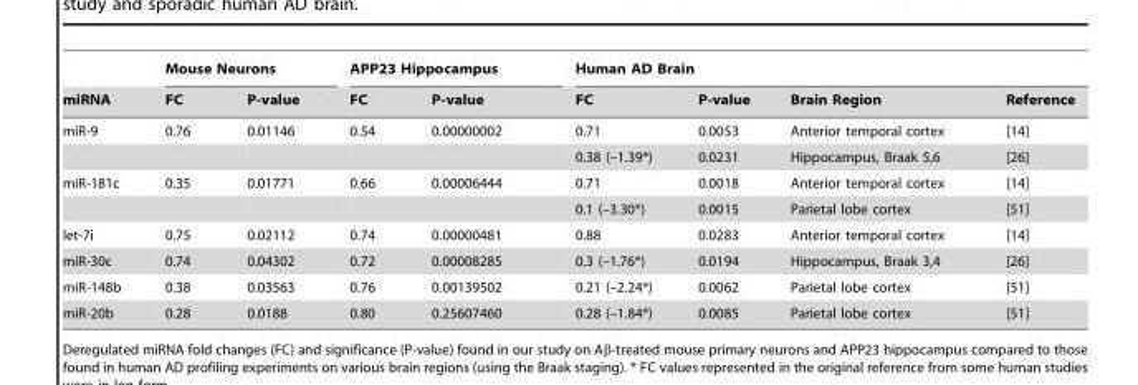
<table><thead><tr><td rowspan="2">miRNA</td><td colspan="2">Mouse Neurons</td><td colspan="2">APP23 Hippocampus</td><td colspan="4">Human AD Brain</td></tr><tr><td>FC</td><td>P-value</td><td>FC</td><td>P-value</td><td>FC</td><td>P-value</td><td>Brain Region</td><td>Reference</td></tr></thead><tbody><tr><td rowspan="2">miR-9</td><td>0.76</td><td>0.01146</td><td>0.54</td><td>0.00000002</td><td>0.71</td><td>0.0053</td><td>Anterior temporal cortex</td><td>[14]</td></tr><tr><td></td><td></td><td></td><td></td><td>0.38 (–1.39*)</td><td>0.0231</td><td>Hippocampus, Braak 5,6</td><td>[26]</td></tr><tr><td rowspan="2">miR-181c</td><td>0.35</td><td>0.01771</td><td>0.66</td><td>0.00006444</td><td>0.71</td><td>0.0018</td><td>Anterior temporal cortex</td><td>[14]</td></tr><tr><td></td><td></td><td></td><td></td><td>0.1 (–3.30*)</td><td>0.0015</td><td>Parietal lobe cortex</td><td>[51]</td></tr><tr><td>let-7i</td><td>0.75</td><td>0.02112</td><td>0.74</td><td>0.00000481</td><td>0.88</td><td>0.0283</td><td>Anterior temporal cortex</td><td>[14]</td></tr><tr><td>miR-30c</td><td>0.74</td><td>0.04302</td><td>0.72</td><td>0.00008285</td><td>0.3 (–1.76*)</td><td>0.0194</td><td>Hippocampus, Braak 3,4</td><td>[26]</td></tr><tr><td>miR-148b</td><td>0.38</td><td>0.03563</td><td>0.76</td><td>0.00139502</td><td>0.21 (–2.24*)</td><td>0.0062</td><td>Parietal lobe cortex</td><td>[51]</td></tr><tr><td>miR-20b</td><td>0.28</td><td>0.0188</td><td>0.80</td><td>0.25607460</td><td>0.28 (–1.84*)</td><td>0.0085</td><td>Parietal lobe cortex</td><td>[51]</td></tr></tbody></table>